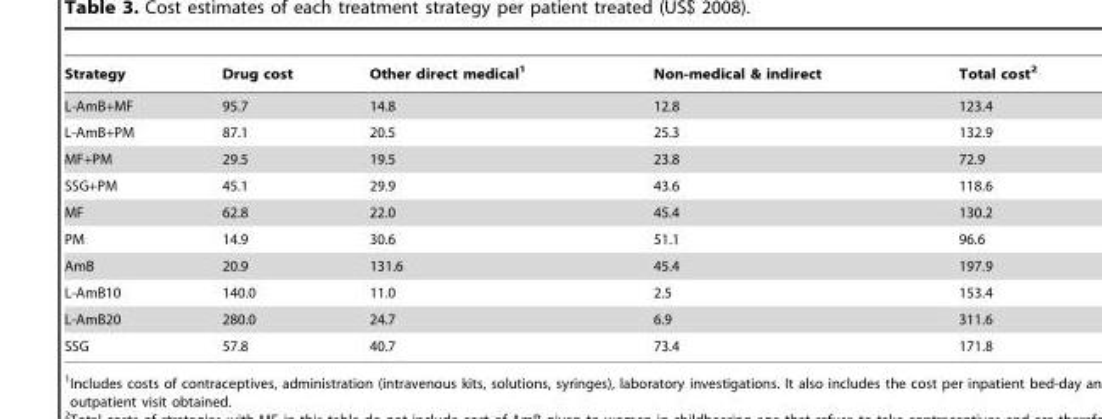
<table><thead><tr><td>Strategy</td><td>Drug cost</td><td>Other direct medical<sup>1</sup></td><td>Non-medical &amp; indirect</td><td>Total cost<sup>2</sup></td></tr></thead><tbody><tr><td>L-AmB+MF</td><td>95.7</td><td>14.8</td><td>12.8</td><td>123.4</td></tr><tr><td>L-AmB+PM</td><td>87.1</td><td>20.5</td><td>25.3</td><td>132.9</td></tr><tr><td>MF+PM</td><td>29.5</td><td>19.5</td><td>23.8</td><td>72.9</td></tr><tr><td>SSG+PM</td><td>45.1</td><td>29.9</td><td>43.6</td><td>118.6</td></tr><tr><td>MF</td><td>62.8</td><td>22.0</td><td>45.4</td><td>130.2</td></tr><tr><td>PM</td><td>14.9</td><td>30.6</td><td>51.1</td><td>96.6</td></tr><tr><td>AmB</td><td>20.9</td><td>131.6</td><td>45.4</td><td>197.9</td></tr><tr><td>L-AmB10</td><td>140.0</td><td>11.0</td><td>2.5</td><td>153.4</td></tr><tr><td>L-AmB20</td><td>280.0</td><td>24.7</td><td>6.9</td><td>311.6</td></tr><tr><td>SSG</td><td>57.8</td><td>40.7</td><td>73.4</td><td>171.8</td></tr></tbody></table>